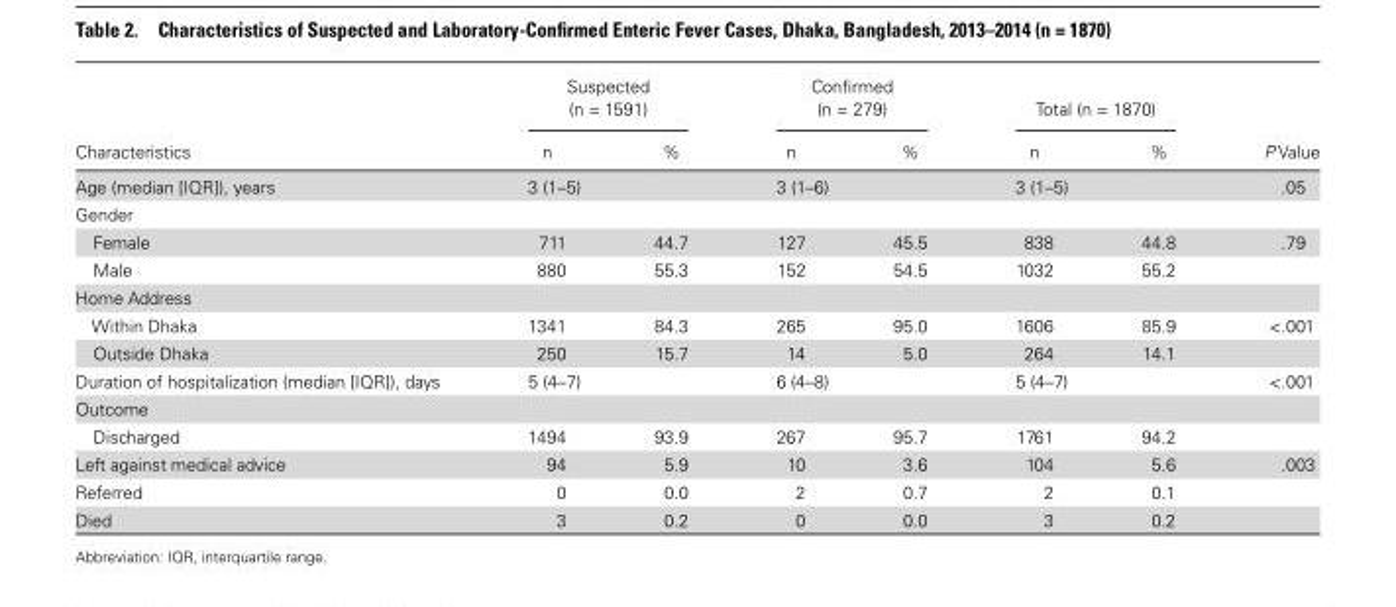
<table><thead><tr><td rowspan="2">Characteristics</td><td colspan="2">Suspected (n = 1591)</td><td colspan="2">Confirmed (n = 279)</td><td colspan="2">Total (n = 1870)</td><td rowspan="2">P Value</td></tr><tr><td>n</td><td>%</td><td>n</td><td>%</td><td>n</td><td>%</td></tr></thead><tbody><tr><td>Age (median [IQR]), years</td><td colspan="2">3 (1–5)</td><td colspan="2">3 (1–6)</td><td colspan="2">3 (1–5)</td><td>.05</td></tr><tr><td colspan="8">Gender</td></tr><tr><td>Female</td><td>711</td><td>44.7</td><td>127</td><td>45.5</td><td>838</td><td>44.8</td><td>.79</td></tr><tr><td>Male</td><td>880</td><td>55.3</td><td>152</td><td>54.5</td><td>1032</td><td>55.2</td><td></td></tr><tr><td colspan="8">Home Address</td></tr><tr><td>Within Dhaka</td><td>1341</td><td>84.3</td><td>265</td><td>95.0</td><td>1606</td><td>85.9</td><td>&lt;.001</td></tr><tr><td>Outside Dhaka</td><td>250</td><td>15.7</td><td>14</td><td>5.0</td><td>264</td><td>14.1</td><td></td></tr><tr><td>Duration of hospitalization (median [IQR]), days</td><td colspan="2">5 (4–7)</td><td colspan="2">6 (4–8)</td><td colspan="2">5 (4–7)</td><td>&lt;.001</td></tr><tr><td colspan="8">Outcome</td></tr><tr><td>Discharged</td><td>1494</td><td>93.9</td><td>267</td><td>95.7</td><td>1761</td><td>94.2</td><td></td></tr><tr><td>Left against medical advice</td><td>94</td><td>5.9</td><td>10</td><td>3.6</td><td>104</td><td>5.6</td><td>.003</td></tr><tr><td>Referred</td><td>0</td><td>0.0</td><td>2</td><td>0.7</td><td>2</td><td>0.1</td><td></td></tr><tr><td>Died</td><td>3</td><td>0.2</td><td>0</td><td>0.0</td><td>3</td><td>0.2</td><td></td></tr></tbody></table>